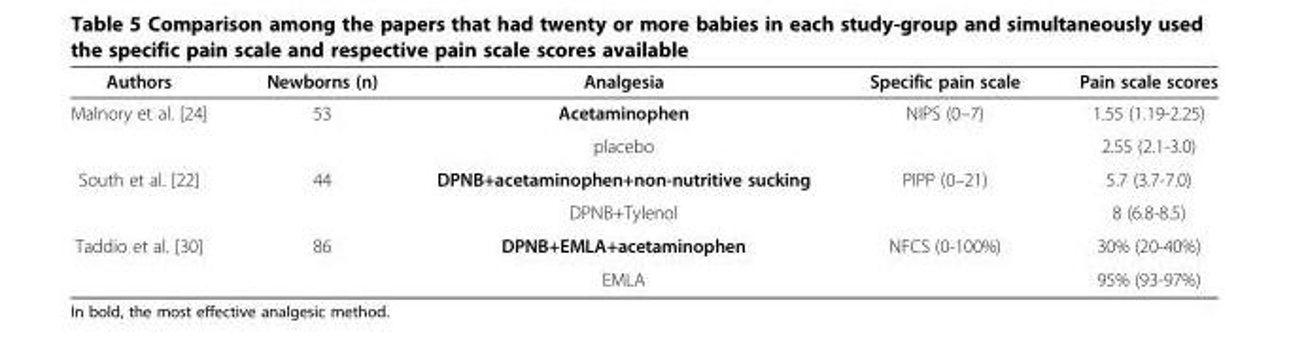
<table><thead><tr><td>Authors</td><td>Newborns (n)</td><td>Analgesia</td><td>Specific pain scale</td><td>Pain scale scores</td></tr></thead><tbody><tr><td rowspan="2">Malnory et al. [24]</td><td rowspan="2">53</td><td>Acetaminophen</td><td rowspan="2">NIPS (0–7)</td><td>1.55 (1.19-2.25)</td></tr><tr><td>placebo</td><td>2.55 (2.1-3.0)</td></tr><tr><td rowspan="2">South et al. [22]</td><td rowspan="2">44</td><td>DPNB+acetaminophen+non-nutritive sucking</td><td rowspan="2">PIPP (0–21)</td><td>5.7 (3.7-7.0)</td></tr><tr><td>DPNB+Tylenol</td><td>8 (6.8-8.5)</td></tr><tr><td rowspan="2">Taddio et al. [30]</td><td rowspan="2">86</td><td>DPNB+EMLA+acetaminophen</td><td rowspan="2">NFCS (0-100%)</td><td>30% (20-40%)</td></tr><tr><td>EMLA</td><td>95% (93-97%)</td></tr></tbody></table>